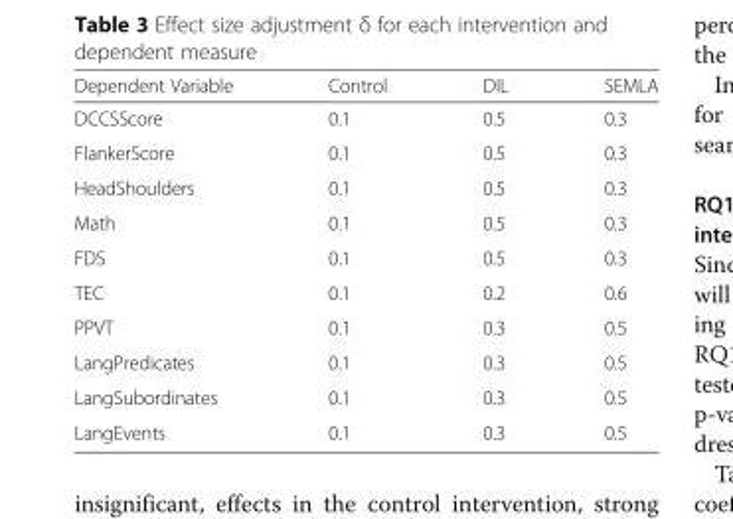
<table><thead><tr><td>Dependent Variable</td><td>Control</td><td>DIL</td><td>SEMLA</td></tr></thead><tbody><tr><td>DCCSScore</td><td>0.1</td><td>0.5</td><td>0.3</td></tr><tr><td>FlankerScore</td><td>0.1</td><td>0.5</td><td>0.3</td></tr><tr><td>HeadShoulders</td><td>0.1</td><td>0.5</td><td>0.3</td></tr><tr><td>Math</td><td>0.1</td><td>0.5</td><td>0.3</td></tr><tr><td>FDS</td><td>0.1</td><td>0.5</td><td>0.3</td></tr><tr><td>TEC</td><td>0.1</td><td>0.2</td><td>0.6</td></tr><tr><td>PPVT</td><td>0.1</td><td>0.3</td><td>0.5</td></tr><tr><td>LangPredicates</td><td>0.1</td><td>0.3</td><td>0.5</td></tr><tr><td>LangSubordinates</td><td>0.1</td><td>0.3</td><td>0.5</td></tr><tr><td>LangEvents</td><td>0.1</td><td>0.3</td><td>0.5</td></tr></tbody></table>